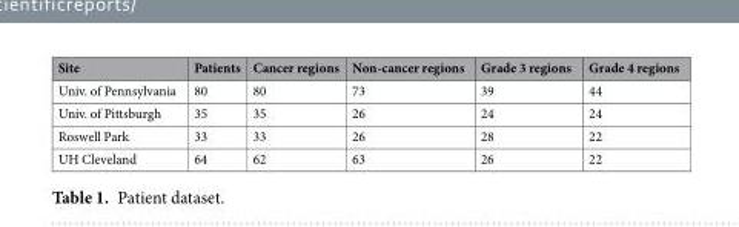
<table><thead><tr><td>Site</td><td>Patients</td><td>Cancer regions</td><td>Non-cancer regions</td><td>Grade 3 regions</td><td>Grade 4 regions</td></tr></thead><tbody><tr><td>Univ. of Pennsylvania</td><td>80</td><td>80</td><td>73</td><td>39</td><td>44</td></tr><tr><td>Univ. of Pittsburgh</td><td>35</td><td>35</td><td>26</td><td>24</td><td>24</td></tr><tr><td>Roswell Park</td><td>33</td><td>33</td><td>26</td><td>28</td><td>22</td></tr><tr><td>UH Cleveland</td><td>64</td><td>62</td><td>63</td><td>26</td><td>22</td></tr></tbody></table>